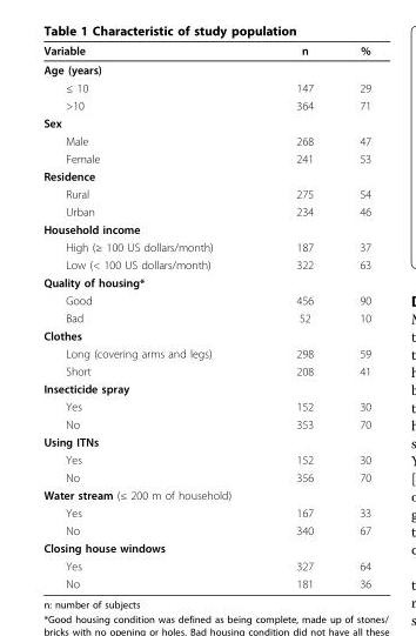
<table><thead><tr><td>Variable</td><td>n</td><td>%</td></tr></thead><tbody><tr><td colspan="3">Age (years)</td></tr><tr><td>≤ 10</td><td>147</td><td>29</td></tr><tr><td>&gt;10</td><td>364</td><td>71</td></tr><tr><td colspan="3">Sex</td></tr><tr><td>Male</td><td>268</td><td>47</td></tr><tr><td>Female</td><td>241</td><td>53</td></tr><tr><td colspan="3">Residence</td></tr><tr><td>Rural</td><td>275</td><td>54</td></tr><tr><td>Urban</td><td>234</td><td>46</td></tr><tr><td colspan="3">Household income</td></tr><tr><td>High (≥ 100 US dollars/month)</td><td>187</td><td>37</td></tr><tr><td>Low (&lt; 100 US dollars/month)</td><td>322</td><td>63</td></tr><tr><td colspan="3">Quality of housing*</td></tr><tr><td>Good</td><td>456</td><td>90</td></tr><tr><td>Bad</td><td>52</td><td>10</td></tr><tr><td colspan="3">Clothes</td></tr><tr><td>Long (covering arms and legs)</td><td>298</td><td>59</td></tr><tr><td>Short</td><td>208</td><td>41</td></tr><tr><td colspan="3">Insecticide spray</td></tr><tr><td>Yes</td><td>152</td><td>30</td></tr><tr><td>No</td><td>353</td><td>70</td></tr><tr><td colspan="3">Using ITNs</td></tr><tr><td>Yes</td><td>152</td><td>30</td></tr><tr><td>No</td><td>356</td><td>70</td></tr><tr><td colspan="3">Water stream (≤ 200 m of household)</td></tr><tr><td>Yes</td><td>167</td><td>33</td></tr><tr><td>No</td><td>340</td><td>67</td></tr><tr><td colspan="3">Closing house windows</td></tr><tr><td>Yes</td><td>327</td><td>64</td></tr><tr><td>No</td><td>181</td><td>36</td></tr></tbody></table>